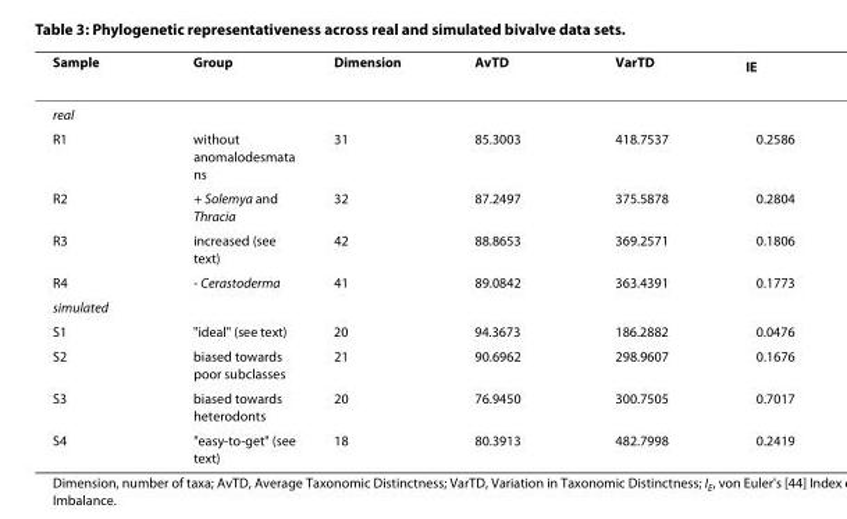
<table><thead><tr><td>Sample</td><td>Group</td><td>Dimension</td><td>AvTD</td><td>VarTD</td><td>I<sub>E</sub></td></tr></thead><tbody><tr><td colspan="6">real</td></tr><tr><td>R1</td><td>without anomalodesmata ns</td><td>31</td><td>85.3003</td><td>418.7537</td><td>0.2586</td></tr><tr><td>R2</td><td>+ Solemya and Thracia</td><td>32</td><td>87.2497</td><td>375.5878</td><td>0.2804</td></tr><tr><td>R3</td><td>increased (see text)</td><td>42</td><td>88.8653</td><td>369.2571</td><td>0.1806</td></tr><tr><td>R4</td><td>- Cerastoderma</td><td>41</td><td>89.0842</td><td>363.4391</td><td>0.1773</td></tr><tr><td colspan="6">simulated</td></tr><tr><td>S1</td><td>&quot;ideal&quot; (see text)</td><td>20</td><td>94.3673</td><td>186.2882</td><td>0.0476</td></tr><tr><td>S2</td><td>biased towards poor subclasses</td><td>21</td><td>90.6962</td><td>298.9607</td><td>0.1676</td></tr><tr><td>S3</td><td>biased towards heterodonts</td><td>20</td><td>76.9450</td><td>300.7505</td><td>0.7017</td></tr><tr><td>S4</td><td>&quot;easy-to-get&quot; (see text)</td><td>18</td><td>80.3913</td><td>482.7998</td><td>0.2419</td></tr></tbody></table>